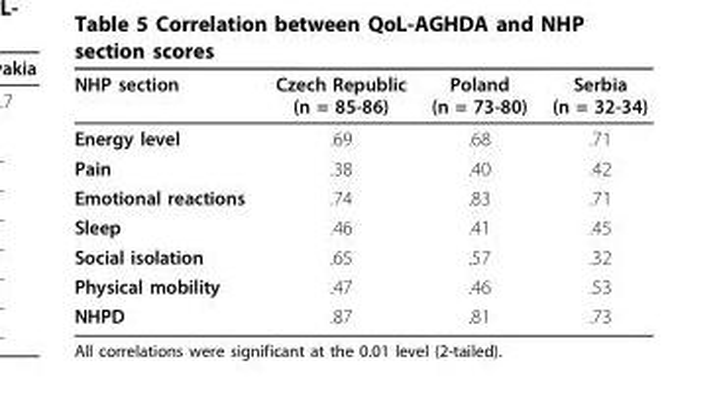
<table><thead><tr><td>NHP section</td><td>Czech Republic (n = 85-86)</td><td>Poland (n = 73-80)</td><td>Serbia (n = 32-34)</td></tr></thead><tbody><tr><td>Energy level</td><td>.69</td><td>.68</td><td>.71</td></tr><tr><td>Pain</td><td>.38</td><td>.40</td><td>.42</td></tr><tr><td>Emotional reactions</td><td>.74</td><td>.83</td><td>.71</td></tr><tr><td>Sleep</td><td>.46</td><td>.41</td><td>.45</td></tr><tr><td>Social isolation</td><td>.65</td><td>.57</td><td>.32</td></tr><tr><td>Physical mobility</td><td>.47</td><td>.46</td><td>.53</td></tr><tr><td>NHPD</td><td>.87</td><td>.81</td><td>.73</td></tr></tbody></table>